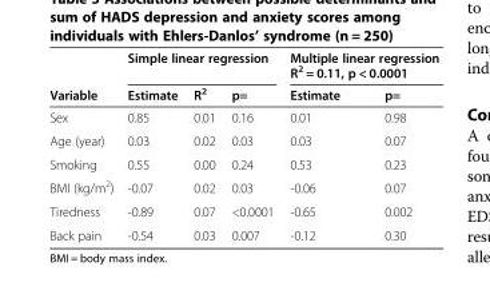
<table><thead><tr><td rowspan="2">Variable</td><td colspan="3">Simple linear regression</td><td colspan="2">Multiple linear regression R<sup>2</sup> = 0.11, p &lt; 0.0001</td></tr><tr><td>Estimate</td><td>R<sup>2</sup></td><td>p=</td><td>Estimate</td><td>p=</td></tr></thead><tbody><tr><td>Sex</td><td>0.85</td><td>0.01</td><td>0.16</td><td>0.01</td><td>0.98</td></tr><tr><td>Age (year)</td><td>0.03</td><td>0.02</td><td>0.03</td><td>0.03</td><td>0.07</td></tr><tr><td>Smoking</td><td>0.55</td><td>0.00</td><td>0.24</td><td>0.53</td><td>0.23</td></tr><tr><td>BMI (kg/m<sup>2</sup>)</td><td>-0.07</td><td>0.02</td><td>0.03</td><td>-0.06</td><td>0.07</td></tr><tr><td>Tiredness</td><td>-0.89</td><td>0.07</td><td>&lt;0.0001</td><td>-0.65</td><td>0.002</td></tr><tr><td>Back pain</td><td>-0.54</td><td>0.03</td><td>0.007</td><td>-0.12</td><td>0.30</td></tr></tbody></table>